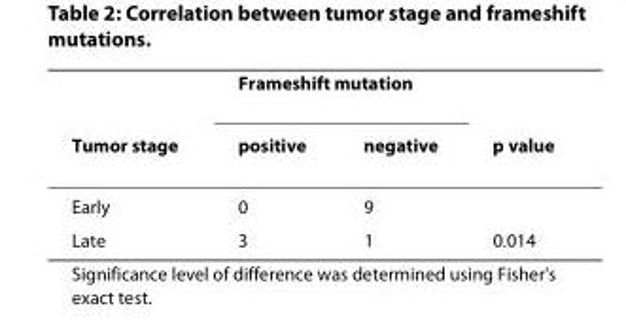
<table><thead><tr><td rowspan="2">Tumor stage</td><td colspan="2">Frameshift mutation</td><td rowspan="2">p value</td></tr><tr><td>positive</td><td>negative</td></tr></thead><tbody><tr><td>Early</td><td>0</td><td>9</td><td></td></tr><tr><td>Late</td><td>3</td><td>1</td><td>0.014</td></tr></tbody></table>